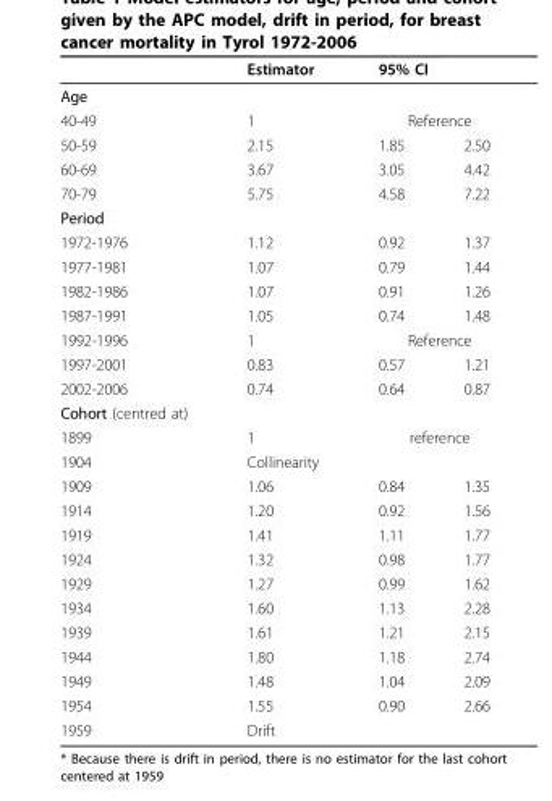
<table><thead><tr><td rowspan="2">Age</td><td rowspan="2">Estimator</td><td colspan="2">95% CI</td></tr><tr><td></td><td></td></tr></thead><tbody><tr><td>40-49</td><td>1</td><td colspan="2">Reference</td></tr><tr><td>50-59</td><td>2.15</td><td>1.85</td><td>2.50</td></tr><tr><td>60-69</td><td>3.67</td><td>3.05</td><td>4.42</td></tr><tr><td>70-79</td><td>5.75</td><td>4.58</td><td>7.22</td></tr><tr><td colspan="4">Period</td></tr><tr><td>1972-1976</td><td>1.12</td><td>0.92</td><td>1.37</td></tr><tr><td>1977-1981</td><td>1.07</td><td>0.79</td><td>1.44</td></tr><tr><td>1982-1986</td><td>1.07</td><td>0.91</td><td>1.26</td></tr><tr><td>1987-1991</td><td>1.05</td><td>0.74</td><td>1.48</td></tr><tr><td>1992-1996</td><td>1</td><td colspan="2">Reference</td></tr><tr><td>1997-2001</td><td>0.83</td><td>0.57</td><td>1.21</td></tr><tr><td>2002-2006</td><td>0.74</td><td>0.64</td><td>0.87</td></tr><tr><td colspan="4">Cohort (centred at)</td></tr><tr><td>1899</td><td>1</td><td colspan="2">reference</td></tr><tr><td>1904</td><td>Collinearity</td><td></td><td></td></tr><tr><td>1909</td><td>1.06</td><td>0.84</td><td>1.35</td></tr><tr><td>1914</td><td>1.20</td><td>0.92</td><td>1.56</td></tr><tr><td>1919</td><td>1.41</td><td>1.11</td><td>1.77</td></tr><tr><td>1924</td><td>1.32</td><td>0.98</td><td>1.77</td></tr><tr><td>1929</td><td>1.27</td><td>0.99</td><td>1.62</td></tr><tr><td>1934</td><td>1.60</td><td>1.13</td><td>2.28</td></tr><tr><td>1939</td><td>1.61</td><td>1.21</td><td>2.15</td></tr><tr><td>1944</td><td>1.80</td><td>1.18</td><td>2.74</td></tr><tr><td>1949</td><td>1.48</td><td>1.04</td><td>2.09</td></tr><tr><td>1954</td><td>1.55</td><td>0.90</td><td>2.66</td></tr><tr><td>1959</td><td>Drift</td><td></td><td></td></tr></tbody></table>